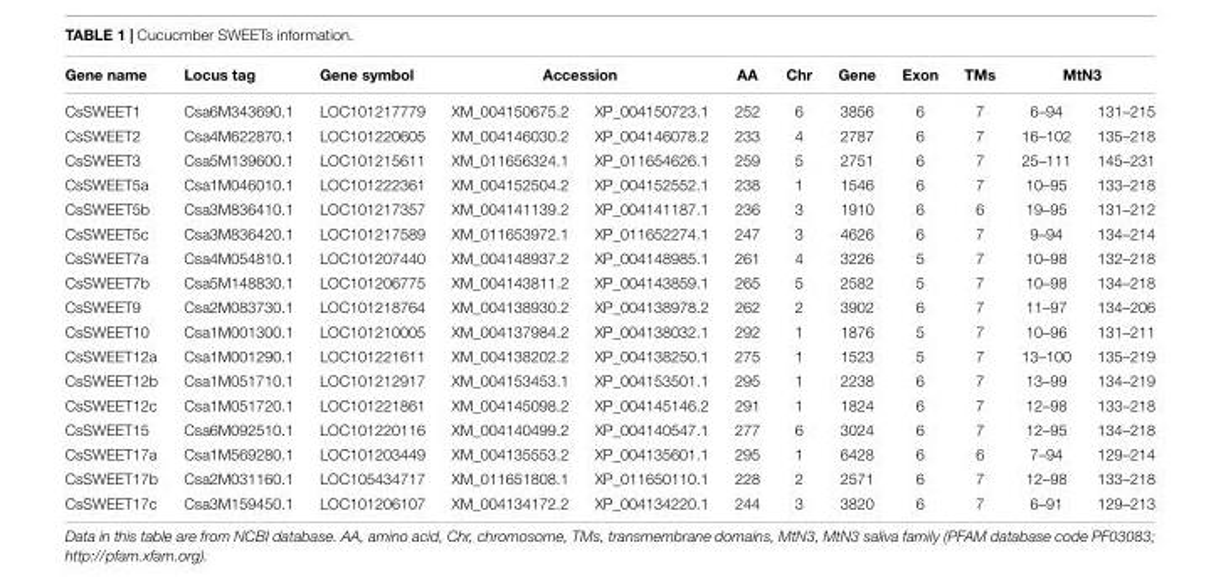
<table><thead><tr><td rowspan="2">Gene name CsSWEET1</td><td rowspan="2">Locus tag Csa6M343690.1</td><td rowspan="2">Gene symbol LOC101217779</td><td colspan="2">Accession</td><td rowspan="2">AA 252</td><td rowspan="2">Chr 6</td><td rowspan="2">Gene 3856</td><td rowspan="2">Exon 6</td><td rowspan="2">TMs 7</td><td colspan="2">MtN3</td></tr><tr><td>XM_004150675.2</td><td>XP_004150723.1</td><td>6–94</td><td>131–215</td></tr></thead><tbody><tr><td>CsSWEET2</td><td>Csa4M622870.1</td><td>LOC101220605</td><td>XM_004146030.2</td><td>XP_004146078.2</td><td>233</td><td>4</td><td>2787</td><td>6</td><td>7</td><td>16–102</td><td>135–218</td></tr><tr><td>CsSWEET3</td><td>Csa5M139600.1</td><td>LOC101215611</td><td>XM_011656324.1</td><td>XP_011654626.1</td><td>259</td><td>5</td><td>2751</td><td>6</td><td>7</td><td>25–111</td><td>145–231</td></tr><tr><td>CsSWEET5a</td><td>Csa1M046010.1</td><td>LOC101222361</td><td>XM_004152504.2</td><td>XP_004152552.1</td><td>238</td><td>1</td><td>1546</td><td>6</td><td>7</td><td>10–95</td><td>133–218</td></tr><tr><td>CsSWEET5b</td><td>Csa3M836410.1</td><td>LOC101217357</td><td>XM_004141139.2</td><td>XP_004141187.1</td><td>236</td><td>3</td><td>1910</td><td>6</td><td>6</td><td>19–95</td><td>131–212</td></tr><tr><td>CsSWEET5c</td><td>Csa3M836420.1</td><td>LOC101217589</td><td>XM_011653972.1</td><td>XP_011652274.1</td><td>247</td><td>3</td><td>4626</td><td>6</td><td>7</td><td>9–94</td><td>134–214</td></tr><tr><td>CsSWEET7a</td><td>Csa4M054810.1</td><td>LOC101207440</td><td>XM_004148937.2</td><td>XP_004148985.1</td><td>261</td><td>4</td><td>3226</td><td>5</td><td>7</td><td>10–98</td><td>132–218</td></tr><tr><td>CsSWEET7b</td><td>Csa5M148830.1</td><td>LOC101206775</td><td>XM_004143811.2</td><td>XP_004143859.1</td><td>265</td><td>5</td><td>2582</td><td>5</td><td>7</td><td>10–98</td><td>134–218</td></tr><tr><td>CsSWEET9</td><td>Csa2M083730.1</td><td>LOC101218764</td><td>XM_004138930.2</td><td>XP_004138978.2</td><td>262</td><td>2</td><td>3902</td><td>6</td><td>7</td><td>11–97</td><td>134–206</td></tr><tr><td>CsSWEET10</td><td>Csa1M001300.1</td><td>LOC101210005</td><td>XM_004137984.2</td><td>XP_004138032.1</td><td>292</td><td>1</td><td>1876</td><td>5</td><td>7</td><td>10–96</td><td>131–211</td></tr><tr><td>CsSWEET12a</td><td>Csa1M001290.1</td><td>LOC101221611</td><td>XM_004138202.2</td><td>XP_004138250.1</td><td>275</td><td>1</td><td>1523</td><td>5</td><td>7</td><td>13–100</td><td>135–219</td></tr><tr><td>CsSWEET12b</td><td>Csa1M051710.1</td><td>LOC101212917</td><td>XM_004153453.1</td><td>XP_004153501.1</td><td>295</td><td>1</td><td>2238</td><td>6</td><td>7</td><td>13–99</td><td>134–219</td></tr><tr><td>CsSWEET12c</td><td>Csa1M051720.1</td><td>LOC101221861</td><td>XM_004145098.2</td><td>XP_004145146.2</td><td>291</td><td>1</td><td>1824</td><td>6</td><td>7</td><td>12–98</td><td>133–218</td></tr><tr><td>CsSWEET15</td><td>Csa6M092510.1</td><td>LOC101220116</td><td>XM_004140499.2</td><td>XP_004140547.1</td><td>277</td><td>6</td><td>3024</td><td>6</td><td>7</td><td>12–95</td><td>134–218</td></tr><tr><td>CsSWEET17a</td><td>Csa1M569280.1</td><td>LOC101203449</td><td>XM_004135553.2</td><td>XP_004135601.1</td><td>295</td><td>1</td><td>6428</td><td>6</td><td>6</td><td>7–94</td><td>129–214</td></tr><tr><td>CsSWEET17b</td><td>Csa2M031160.1</td><td>LOC105434717</td><td>XM_011651808.1</td><td>XP_011650110.1</td><td>228</td><td>2</td><td>2571</td><td>6</td><td>7</td><td>12–98</td><td>133–218</td></tr><tr><td>CsSWEET17c</td><td>Csa3M159450.1</td><td>LOC101206107</td><td>XM_004134172.2</td><td>XP_004134220.1</td><td>244</td><td>3</td><td>3820</td><td>6</td><td>7</td><td>6–91</td><td>129–213</td></tr></tbody></table>